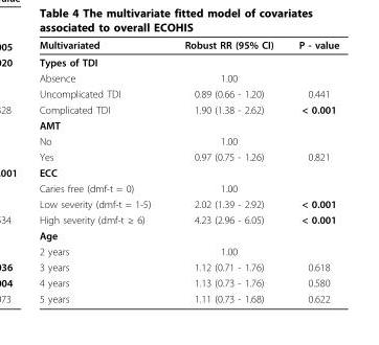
<table><thead><tr><td>Multivariated</td><td>Robust RR (95% CI)</td><td>P - value</td></tr></thead><tbody><tr><td colspan="3">Types of TDI</td></tr><tr><td>Absence</td><td>1.00</td><td></td></tr><tr><td>Uncomplicated TDI</td><td>0.89 (0.66 - 1.20)</td><td>0.441</td></tr><tr><td>Complicated TDI</td><td>1.90 (1.38 - 2.62)</td><td>&lt; 0.001</td></tr><tr><td colspan="3">AMT</td></tr><tr><td>No</td><td>1.00</td><td></td></tr><tr><td>Yes</td><td>0.97 (0.75 - 1.26)</td><td>0.821</td></tr><tr><td colspan="3">ECC</td></tr><tr><td>Caries free (dmf-t = 0)</td><td>1.00</td><td></td></tr><tr><td>Low severity (dmf-t = 1-5)</td><td>2.02 (1.39 - 2.92)</td><td>&lt; 0.001</td></tr><tr><td>High severity (dmf-t ≥ 6)</td><td>4.23 (2.96 - 6.05)</td><td>&lt; 0.001</td></tr><tr><td colspan="3">Age</td></tr><tr><td>2 years</td><td>1.00</td><td></td></tr><tr><td>3 years</td><td>1.12 (0.71 - 1.76)</td><td>0.618</td></tr><tr><td>4 years</td><td>1.13 (0.73 - 1.76)</td><td>0.580</td></tr><tr><td>5 years</td><td>1.11 (0.73 - 1.68)</td><td>0.622</td></tr></tbody></table>